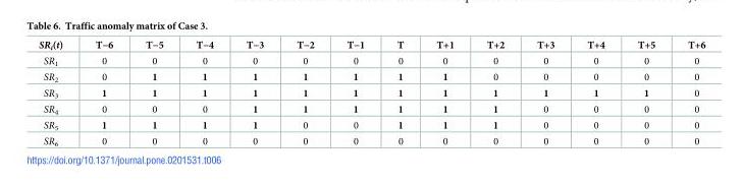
<table><thead><tr><td>SR<sub>i</sub>(t)</td><td>T−6</td><td>T−5</td><td>T−4</td><td>T−3</td><td>T−2</td><td>T−1</td><td>T</td><td>T+1</td><td>T+2</td><td>T+3</td><td>T+4</td><td>T+5</td><td>T+6</td></tr></thead><tbody><tr><td>SR<sub>1</sub></td><td>0</td><td>0</td><td>0</td><td>0</td><td>0</td><td>0</td><td>0</td><td>0</td><td>0</td><td>0</td><td>0</td><td>0</td><td>0</td></tr><tr><td>SR<sub>2</sub></td><td>0</td><td>1</td><td>1</td><td>1</td><td>1</td><td>1</td><td>1</td><td>1</td><td>0</td><td>0</td><td>0</td><td>0</td><td>0</td></tr><tr><td>SR<sub>3</sub></td><td>1</td><td>1</td><td>1</td><td>1</td><td>1</td><td>1</td><td>1</td><td>1</td><td>1</td><td>1</td><td>1</td><td>1</td><td>0</td></tr><tr><td>SR<sub>4</sub></td><td>0</td><td>0</td><td>0</td><td>1</td><td>1</td><td>1</td><td>1</td><td>1</td><td>1</td><td>0</td><td>0</td><td>0</td><td>0</td></tr><tr><td>SR<sub>5</sub></td><td>1</td><td>1</td><td>1</td><td>1</td><td>0</td><td>0</td><td>1</td><td>1</td><td>1</td><td>0</td><td>0</td><td>0</td><td>0</td></tr><tr><td>SR<sub>6</sub></td><td>0</td><td>0</td><td>0</td><td>0</td><td>0</td><td>0</td><td>0</td><td>0</td><td>0</td><td>0</td><td>0</td><td>0</td><td>0</td></tr></tbody></table>